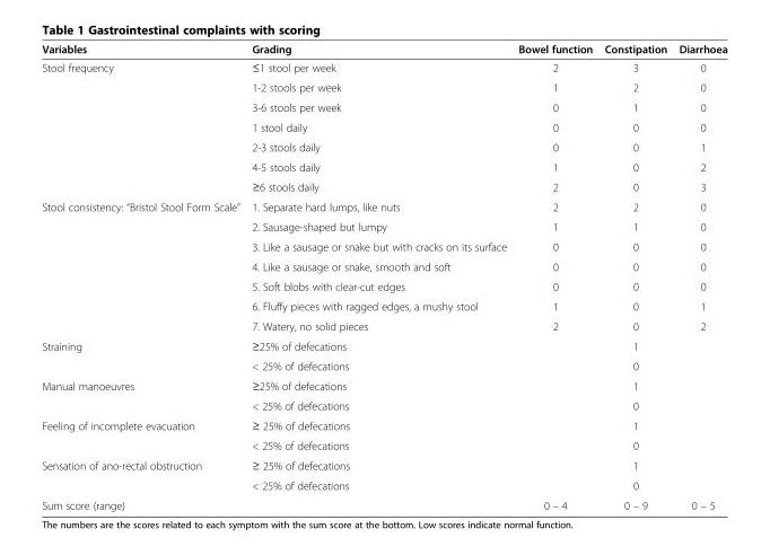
<table><thead><tr><td>Variables</td><td>Grading</td><td>Bowel function</td><td>Constipation</td><td>Diarrhoea</td></tr></thead><tbody><tr><td rowspan="7">Stool frequency</td><td>≤1 stool per week</td><td>2</td><td>3</td><td>0</td></tr><tr><td>1-2 stools per week</td><td>1</td><td>2</td><td>0</td></tr><tr><td>3-6 stools per week</td><td>0</td><td>1</td><td>0</td></tr><tr><td>1 stool daily</td><td>0</td><td>0</td><td>0</td></tr><tr><td>2-3 stools daily</td><td>0</td><td>0</td><td>1</td></tr><tr><td>4-5 stools daily</td><td>1</td><td>0</td><td>2</td></tr><tr><td>≥6 stools daily</td><td>2</td><td>0</td><td>3</td></tr><tr><td rowspan="7">Stool consistency: “Bristol Stool Form Scale”</td><td>1. Separate hard lumps, like nuts</td><td>2</td><td>2</td><td>0</td></tr><tr><td>2. Sausage-shaped but lumpy</td><td>1</td><td>1</td><td>0</td></tr><tr><td>3. Like a sausage or snake but with cracks on its surface</td><td>0</td><td>0</td><td>0</td></tr><tr><td>4. Like a sausage or snake, smooth and soft</td><td>0</td><td>0</td><td>0</td></tr><tr><td>5. Soft blobs with clear-cut edges</td><td>0</td><td>0</td><td>0</td></tr><tr><td>6. Fluffy pieces with ragged edges, a mushy stool</td><td>1</td><td>0</td><td>1</td></tr><tr><td>7. Watery, no solid pieces</td><td>2</td><td>0</td><td>2</td></tr><tr><td rowspan="2">Straining</td><td>≥25% of defecations</td><td></td><td>1</td><td></td></tr><tr><td>&lt; 25% of defecations</td><td></td><td>0</td><td></td></tr><tr><td rowspan="2">Manual manoeuvres</td><td>≥25% of defecations</td><td></td><td>1</td><td></td></tr><tr><td>&lt; 25% of defecations</td><td></td><td>0</td><td></td></tr><tr><td rowspan="2">Feeling of incomplete evacuation</td><td>≥ 25% of defecations</td><td></td><td>1</td><td></td></tr><tr><td>&lt; 25% of defecations</td><td></td><td>0</td><td></td></tr><tr><td rowspan="2">Sensation of ano-rectal obstruction</td><td>≥ 25% of defecations</td><td></td><td>1</td><td></td></tr><tr><td>&lt; 25% of defecations</td><td></td><td>0</td><td></td></tr><tr><td>Sum score (range)</td><td></td><td>0 – 4</td><td>0 – 9</td><td>0 – 5</td></tr></tbody></table>